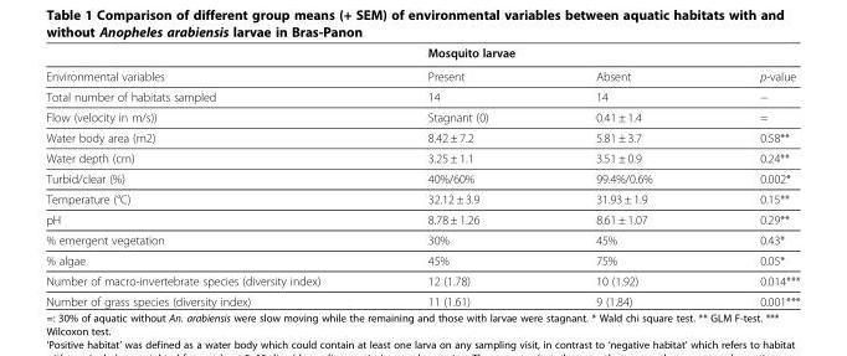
<table><thead><tr><td rowspan="2">Environmental variables</td><td colspan="2">Mosquito larvae</td><td rowspan="2">p-value</td></tr><tr><td>Present</td><td>Absent</td></tr></thead><tbody><tr><td>Total number of habitats sampled</td><td>14</td><td>14</td><td>−</td></tr><tr><td>Flow (velocity in m/s))</td><td>Stagnant (0)</td><td>0.41 ± 1.4</td><td>=</td></tr><tr><td>Water body area (m2)</td><td>8.42 ± 7.2</td><td>5.81 ± 3.7</td><td>0.58**</td></tr><tr><td>Water depth (cm)</td><td>3.25 ± 1.1</td><td>3.51 ± 0.9</td><td>0.24**</td></tr><tr><td>Turbid/clear (%)</td><td>40%/60%</td><td>99.4%/0.6%</td><td>0.002*</td></tr><tr><td>Temperature (°C)</td><td>32.12 ± 3.9</td><td>31.93 ± 1.9</td><td>0.15**</td></tr><tr><td>pH</td><td>8.78 ± 1.26</td><td>8.61 ± 1.07</td><td>0.29**</td></tr><tr><td>% emergent vegetation</td><td>30%</td><td>45%</td><td>0.43*</td></tr><tr><td>% algae</td><td>45%</td><td>75%</td><td>0.05*</td></tr><tr><td>Number of macro-invertebrate species (diversity index)</td><td>12 (1.78)</td><td>10 (1.92)</td><td>0.014***</td></tr><tr><td>Number of grass species (diversity index)</td><td>11 (1.61)</td><td>9 (1.84)</td><td>0.001***</td></tr></tbody></table>